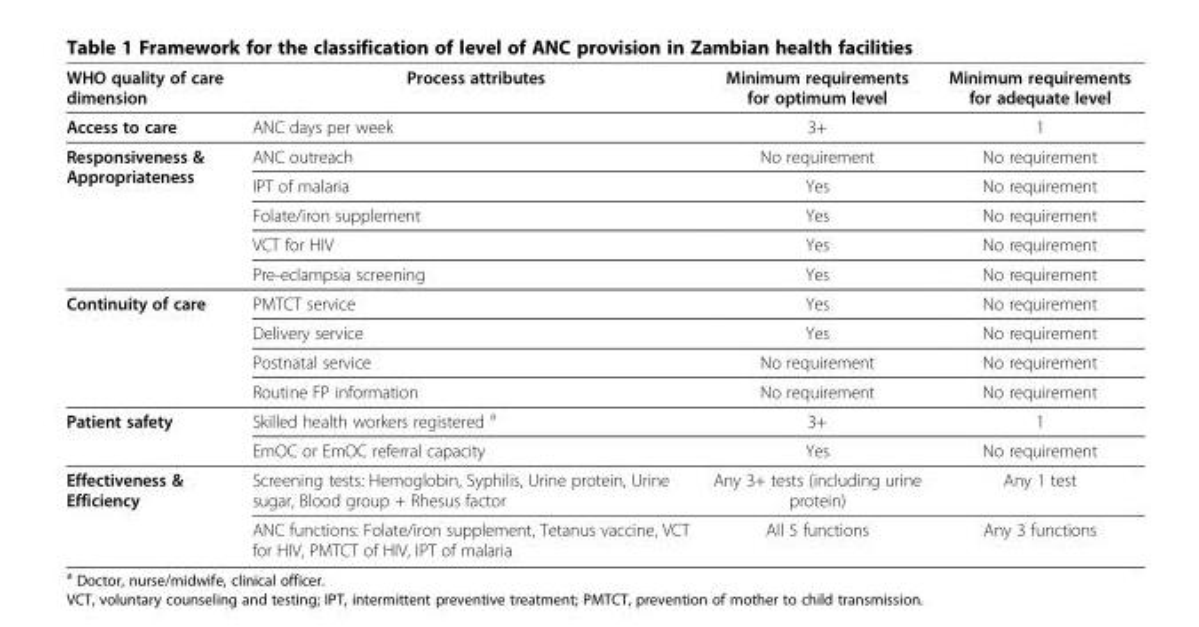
<table><thead><tr><td>WHO quality of care dimension</td><td>Process attributes</td><td>Minimum requirements for optimum level</td><td>Minimum requirements for adequate level</td></tr></thead><tbody><tr><td>Access to care</td><td>ANC days per week</td><td>3+</td><td>1</td></tr><tr><td rowspan="5">Responsiveness &amp; Appropriateness</td><td>ANC outreach</td><td>No requirement</td><td>No requirement</td></tr><tr><td>IPT of malaria</td><td>Yes</td><td>No requirement</td></tr><tr><td>Folate/iron supplement</td><td>Yes</td><td>No requirement</td></tr><tr><td>VCT for HIV</td><td>Yes</td><td>No requirement</td></tr><tr><td>Pre-eclampsia screening</td><td>Yes</td><td>No requirement</td></tr><tr><td rowspan="4">Continuity of care</td><td>PMTCT service</td><td>Yes</td><td>No requirement</td></tr><tr><td>Delivery service</td><td>Yes</td><td>No requirement</td></tr><tr><td>Postnatal service</td><td>No requirement</td><td>No requirement</td></tr><tr><td>Routine FP information</td><td>No requirement</td><td>No requirement</td></tr><tr><td rowspan="2">Patient safety</td><td>Skilled health workers registered <sup>a</sup></td><td>3+</td><td>1</td></tr><tr><td>EmOC or EmOC referral capacity</td><td>Yes</td><td>No requirement</td></tr><tr><td rowspan="2">Effectiveness &amp; Efficiency</td><td>Screening tests: Hemoglobin, Syphilis, Urine protein, Urine sugar, Blood group + Rhesus factor</td><td>Any 3+ tests (including urine protein)</td><td>Any 1 test</td></tr><tr><td>ANC functions: Folate/iron supplement, Tetanus vaccine, VCT for HIV, PMTCT of HIV, IPT of malaria</td><td>All 5 functions</td><td>Any 3 functions</td></tr></tbody></table>